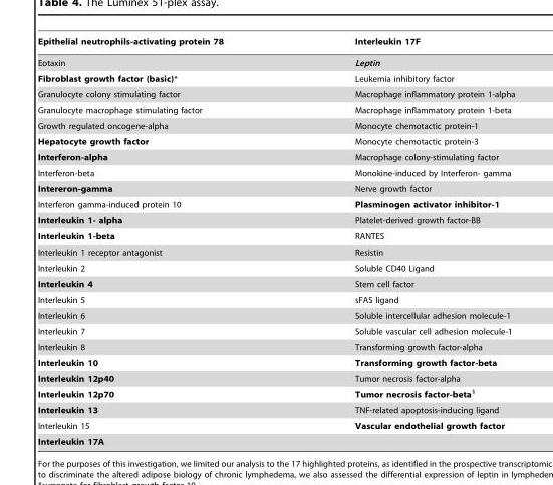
<table><thead><tr><td>Epithelial neutrophils-activating protein 78</td><td>Interleukin 17F</td></tr></thead><tbody><tr><td>Eotaxin</td><td>Leptin</td></tr><tr><td>Fibroblast growth factor (basic)*</td><td>Leukemia inhibitory factor</td></tr><tr><td>Granulocyte colony stimulating factor</td><td>Macrophage inflammatory protein 1-alpha</td></tr><tr><td>Granulocyte macrophage stimulating factor</td><td>Macrophage inflammatory protein 1-beta</td></tr><tr><td>Growth regulated oncogene-alpha</td><td>Monocyte chemotactic protein-1</td></tr><tr><td>Hepatocyte growth factor</td><td>Monocyte chemotactic protein-3</td></tr><tr><td>Interferon-alpha</td><td>Macrophage colony-stimulating factor</td></tr><tr><td>Interferon-beta</td><td>Monokine-induced by Interferon- gamma</td></tr><tr><td>Intereron-gamma</td><td>Nerve growth factor</td></tr><tr><td>Interferon gamma-induced protein 10</td><td>Plasminogen activator inhibitor-1</td></tr><tr><td>Interleukin 1- alpha</td><td>Platelet-derived growth factor-BB</td></tr><tr><td>Interleukin 1-beta</td><td>RANTES</td></tr><tr><td>Interleukin 1 receptor antagonist</td><td>Resistin</td></tr><tr><td>Interleukin 2</td><td>Soluble CD40 Ligand</td></tr><tr><td>Interleukin 4</td><td>Stem cell factor</td></tr><tr><td>Interleukin 5</td><td>sFAS ligand</td></tr><tr><td>Interleukin 6</td><td>Soluble intercellular adhesion molecule-1</td></tr><tr><td>Interleukin 7</td><td>Soluble vascular cell adhesion molecule-1</td></tr><tr><td>Interleukin 8</td><td>Transforming growth factor-alpha</td></tr><tr><td>Interleukin 10</td><td>Transforming growth factor-beta</td></tr><tr><td>Interleukin 12p40</td><td>Tumor necrosis factor-alpha</td></tr><tr><td>Interleukin 12p70</td><td>Tumor necrosis factor-beta§</td></tr><tr><td>Interleukin 13</td><td>TNF-related apoptosis-inducing ligand</td></tr><tr><td>Interleukin 15</td><td>Vascular endothelial growth factor</td></tr><tr><td>Interleukin 17A</td><td></td></tr></tbody></table>